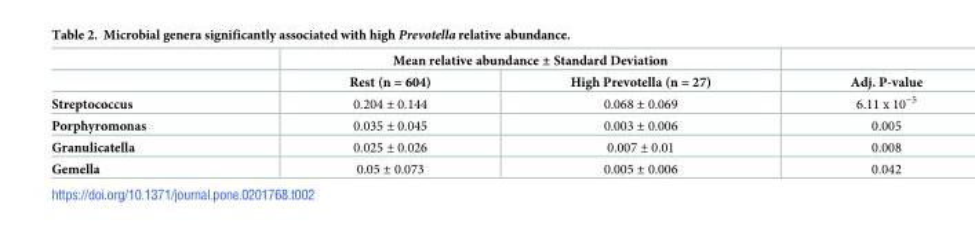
<table><thead><tr><td rowspan="2"></td><td colspan="2">Mean relative abundance ± Standard Deviation</td><td rowspan="2">Adj. P-value</td></tr><tr><td>Rest (n = 604)</td><td>High Prevotella (n = 27)</td></tr></thead><tbody><tr><td>Streptococcus</td><td>0.204 ± 0.144</td><td>0.068 ± 0.069</td><td>6.11 x 10<sup>−5</sup></td></tr><tr><td>Porphyromonas</td><td>0.035 ± 0.045</td><td>0.003 ± 0.006</td><td>0.005</td></tr><tr><td>Granulicatella</td><td>0.025 ± 0.026</td><td>0.007 ± 0.01</td><td>0.008</td></tr><tr><td>Gemella</td><td>0.05 ± 0.073</td><td>0.005 ± 0.006</td><td>0.042</td></tr></tbody></table>